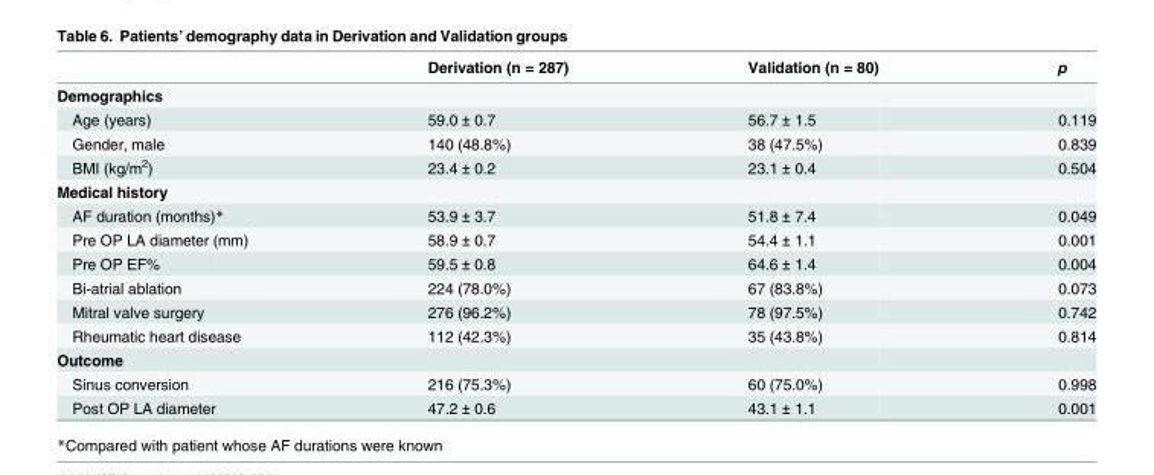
<table><thead><tr><td></td><td>Derivation (n = 287)</td><td>Validation (n = 80)</td><td>p</td></tr></thead><tbody><tr><td colspan="4">Demographics</td></tr><tr><td>Age (years)</td><td>59.0 ± 0.7</td><td>56.7 ± 1.5</td><td>0.119</td></tr><tr><td>Gender, male</td><td>140 (48.8%)</td><td>38 (47.5%)</td><td>0.839</td></tr><tr><td>BMI (kg/m<sup>2</sup>)</td><td>23.4 ± 0.2</td><td>23.1 ± 0.4</td><td>0.504</td></tr><tr><td colspan="4">Medical history</td></tr><tr><td>AF duration (months)*</td><td>53.9 ± 3.7</td><td>51.8 ± 7.4</td><td>0.049</td></tr><tr><td>Pre OP LA diameter (mm)</td><td>58.9 ± 0.7</td><td>54.4 ± 1.1</td><td>0.001</td></tr><tr><td>Pre OP EF%</td><td>59.5 ± 0.8</td><td>64.6 ± 1.4</td><td>0.004</td></tr><tr><td>Bi-atrial ablation</td><td>224 (78.0%)</td><td>67 (83.8%)</td><td>0.073</td></tr><tr><td>Mitral valve surgery</td><td>276 (96.2%)</td><td>78 (97.5%)</td><td>0.742</td></tr><tr><td>Rheumatic heart disease</td><td>112 (42.3%)</td><td>35 (43.8%)</td><td>0.814</td></tr><tr><td colspan="4">Outcome</td></tr><tr><td>Sinus conversion</td><td>216 (75.3%)</td><td>60 (75.0%)</td><td>0.998</td></tr><tr><td>Post OP LA diameter</td><td>47.2 ± 0.6</td><td>43.1 ± 1.1</td><td>0.001</td></tr></tbody></table>